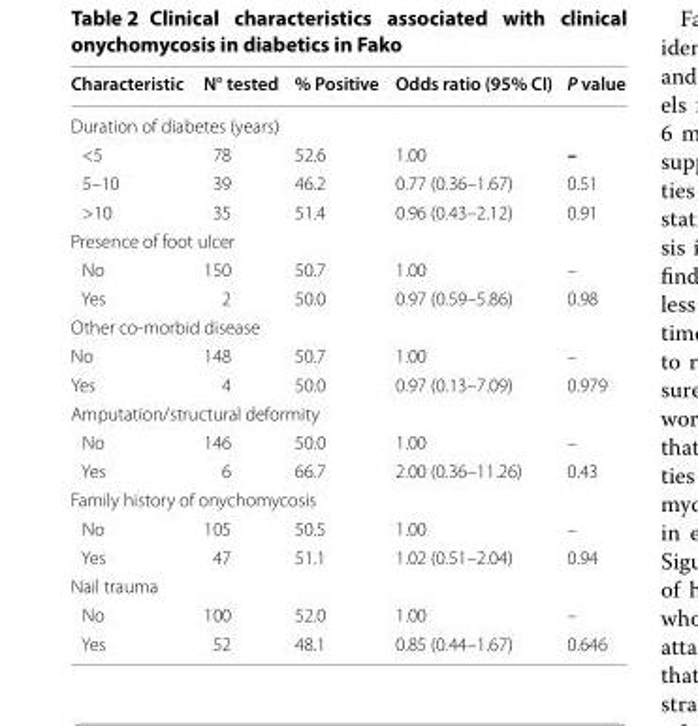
<table><thead><tr><td>Characteristic</td><td>N° tested</td><td>% Positive</td><td>Odds ratio (95% CI)</td><td>P value</td></tr></thead><tbody><tr><td colspan="5">Duration of diabetes (years)</td></tr><tr><td>&lt;5</td><td>78</td><td>52.6</td><td>1.00</td><td>–</td></tr><tr><td>5–10</td><td>39</td><td>46.2</td><td>0.77 (0.36–1.67)</td><td>0.51</td></tr><tr><td>&gt;10</td><td>35</td><td>51.4</td><td>0.96 (0.43–2.12)</td><td>0.91</td></tr><tr><td colspan="5">Presence of foot ulcer</td></tr><tr><td>No</td><td>150</td><td>50.7</td><td>1.00</td><td>–</td></tr><tr><td>Yes</td><td>2</td><td>50.0</td><td>0.97 (0.59–5.86)</td><td>0.98</td></tr><tr><td colspan="5">Other co-morbid disease</td></tr><tr><td>No</td><td>148</td><td>50.7</td><td>1.00</td><td>–</td></tr><tr><td>Yes</td><td>4</td><td>50.0</td><td>0.97 (0.13–7.09)</td><td>0.979</td></tr><tr><td colspan="5">Amputation/structural deformity</td></tr><tr><td>No</td><td>146</td><td>50.0</td><td>1.00</td><td>–</td></tr><tr><td>Yes</td><td>6</td><td>66.7</td><td>2.00 (0.36–11.26)</td><td>0.43</td></tr><tr><td colspan="5">Family history of onychomycosis</td></tr><tr><td>No</td><td>105</td><td>50.5</td><td>1.00</td><td>–</td></tr><tr><td>Yes</td><td>47</td><td>51.1</td><td>1.02 (0.51–2.04)</td><td>0.94</td></tr><tr><td colspan="5">Nail trauma</td></tr><tr><td>No</td><td>100</td><td>52.0</td><td>1.00</td><td>–</td></tr><tr><td>Yes</td><td>52</td><td>48.1</td><td>0.85 (0.44–1.67)</td><td>0.646</td></tr></tbody></table>